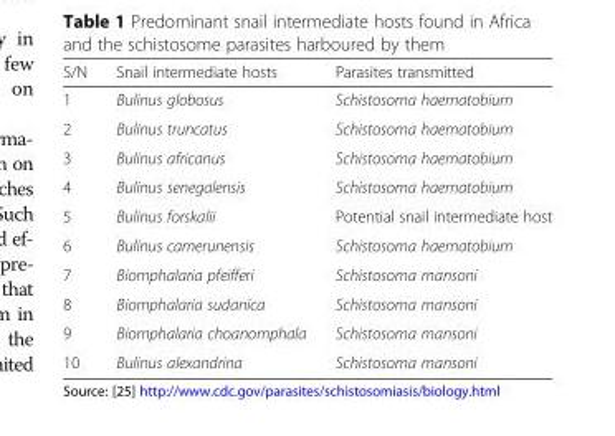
<table><thead><tr><td>S/N</td><td>Snail intermediate hosts</td><td>Parasites transmitted</td></tr></thead><tbody><tr><td>1</td><td>Bulinus globosus</td><td>Schistosoma haematobium</td></tr><tr><td>2</td><td>Bulinus truncatus</td><td>Schistosoma haematobium</td></tr><tr><td>3</td><td>Bulinus africanus</td><td>Schistosoma haematobium</td></tr><tr><td>4</td><td>Bulinus senegalensis</td><td>Schistosoma haematobium</td></tr><tr><td>5</td><td>Bulinus forskalii</td><td>Potential snail intermediate host</td></tr><tr><td>6</td><td>Bulinus camerunensis</td><td>Schistosoma haematobium</td></tr><tr><td>7</td><td>Biomphalaria pfeifferi</td><td>Schistosoma mansoni</td></tr><tr><td>8</td><td>Biomphalaria sudanica</td><td>Schistosoma mansoni</td></tr><tr><td>9</td><td>Biomphalaria choanomphala</td><td>Schistosoma mansoni</td></tr><tr><td>10</td><td>Bulinus alexandrina</td><td>Schistosoma mansoni</td></tr></tbody></table>